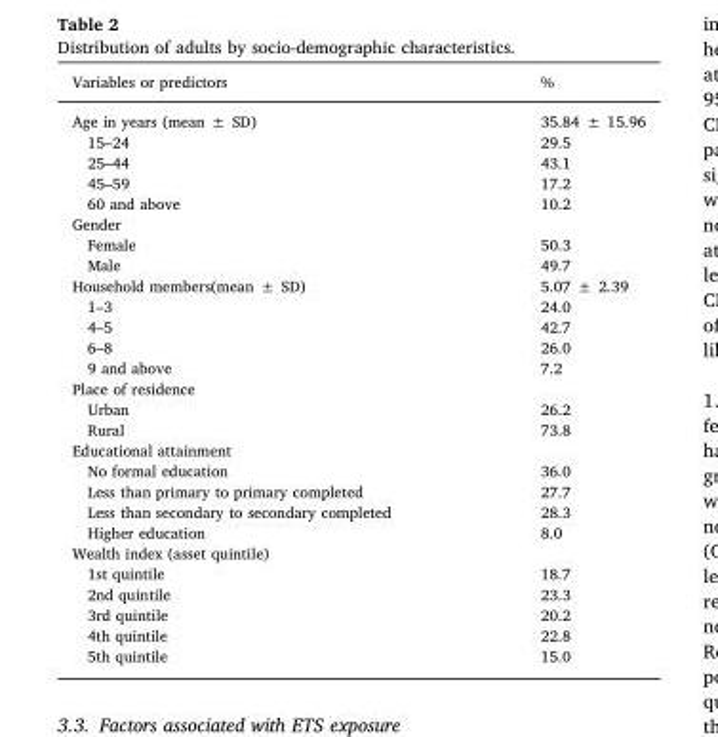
<table><thead><tr><td>Variables or predictors</td><td>%</td></tr></thead><tbody><tr><td>Age in years (mean ± SD)</td><td>35.84 ± 15.96</td></tr><tr><td>15–24</td><td>29.5</td></tr><tr><td>25–44</td><td>43.1</td></tr><tr><td>45–59</td><td>17.2</td></tr><tr><td>60 and above</td><td>10.2</td></tr><tr><td colspan="2">Gender</td></tr><tr><td>Female</td><td>50.3</td></tr><tr><td>Male</td><td>49.7</td></tr><tr><td>Household members(mean ± SD)</td><td>5.07 ± 2.39</td></tr><tr><td>1–3</td><td>24.0</td></tr><tr><td>4–5</td><td>42.7</td></tr><tr><td>6–8</td><td>26.0</td></tr><tr><td>9 and above</td><td>7.2</td></tr><tr><td colspan="2">Place of residence</td></tr><tr><td>Urban</td><td>26.2</td></tr><tr><td>Rural</td><td>73.8</td></tr><tr><td colspan="2">Educational attainment</td></tr><tr><td>No formal education</td><td>36.0</td></tr><tr><td>Less than primary to primary completed</td><td>27.7</td></tr><tr><td>Less than secondary to secondary completed</td><td>28.3</td></tr><tr><td>Higher education</td><td>8.0</td></tr><tr><td colspan="2">Wealth index (asset quintile)</td></tr><tr><td>1st quintile</td><td>18.7</td></tr><tr><td>2nd quintile</td><td>23.3</td></tr><tr><td>3rd quintile</td><td>20.2</td></tr><tr><td>4th quintile</td><td>22.8</td></tr><tr><td>5th quintile</td><td>15.0</td></tr></tbody></table>